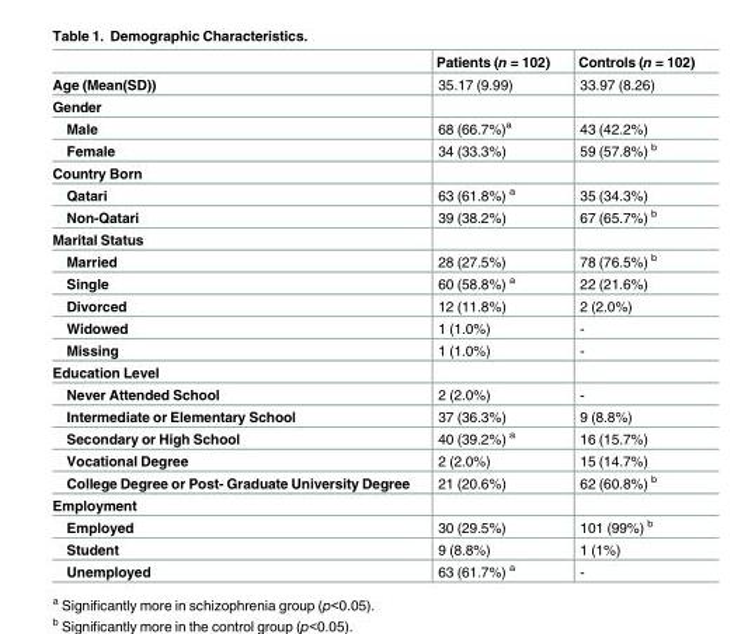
<table><thead><tr><td></td><td>Patients (n = 102)</td><td>Controls (n = 102)</td></tr></thead><tbody><tr><td>Age (Mean(SD))</td><td>35.17 (9.99)</td><td>33.97 (8.26)</td></tr><tr><td colspan="3">Gender</td></tr><tr><td>Male</td><td>68 (66.7%)<sup>a</sup></td><td>43 (42.2%)</td></tr><tr><td>Female</td><td>34 (33.3%)</td><td>59 (57.8%) <sup>b</sup></td></tr><tr><td colspan="3">Country Born</td></tr><tr><td>Qatari</td><td>63 (61.8%) <sup>a</sup></td><td>35 (34.3%)</td></tr><tr><td>Non-Qatari</td><td>39 (38.2%)</td><td>67 (65.7%) <sup>b</sup></td></tr><tr><td colspan="3">Marital Status</td></tr><tr><td>Married</td><td>28 (27.5%)</td><td>78 (76.5%) <sup>b</sup></td></tr><tr><td>Single</td><td>60 (58.8%) <sup>a</sup></td><td>22 (21.6%)</td></tr><tr><td>Divorced</td><td>12 (11.8%)</td><td>2 (2.0%)</td></tr><tr><td>Widowed</td><td>1 (1.0%)</td><td>-</td></tr><tr><td>Missing</td><td>1 (1.0%)</td><td>-</td></tr><tr><td colspan="3">Education Level</td></tr><tr><td>Never Attended School</td><td>2 (2.0%)</td><td>-</td></tr><tr><td>Intermediate or Elementary School</td><td>37 (36.3%)</td><td>9 (8.8%)</td></tr><tr><td>Secondary or High School</td><td>40 (39.2%) <sup>a</sup></td><td>16 (15.7%)</td></tr><tr><td>Vocational Degree</td><td>2 (2.0%)</td><td>15 (14.7%)</td></tr><tr><td>College Degree or Post- Graduate University Degree</td><td>21 (20.6%)</td><td>62 (60.8%) <sup>b</sup></td></tr><tr><td colspan="3">Employment</td></tr><tr><td>Employed</td><td>30 (29.5%)</td><td>101 (99%) <sup>b</sup></td></tr><tr><td>Student</td><td>9 (8.8%)</td><td>1 (1%)</td></tr><tr><td>Unemployed</td><td>63 (61.7%) <sup>a</sup></td><td>-</td></tr></tbody></table>